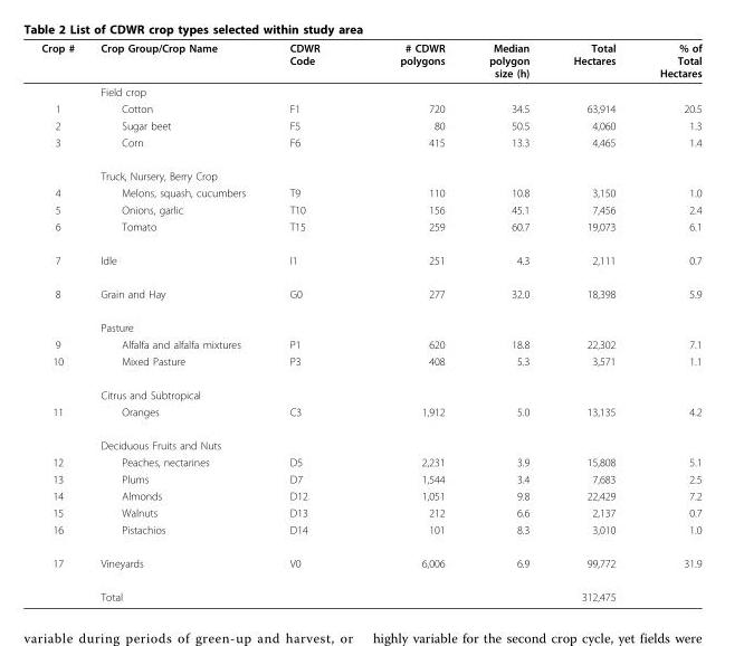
<table><thead><tr><td>Crop #</td><td>Crop Group/Crop Name</td><td>CDWR Code</td><td># CDWR polygons</td><td>Median polygon size (h)</td><td>Total Hectares</td><td>% of Total Hectares</td></tr></thead><tbody><tr><td></td><td>Field crop</td><td></td><td></td><td></td><td></td><td></td></tr><tr><td>1</td><td>Cotton</td><td>F1</td><td>720</td><td>34.5</td><td>63,914</td><td>20.5</td></tr><tr><td>2</td><td>Sugar beet</td><td>F5</td><td>80</td><td>50.5</td><td>4,060</td><td>1.3</td></tr><tr><td rowspan="2">3</td><td>Corn</td><td>F6</td><td>415</td><td>13.3</td><td>4,465</td><td>1.4</td></tr><tr><td>Truck, Nursery, Berry Crop</td><td></td><td></td><td></td><td></td><td></td></tr><tr><td>4</td><td>Melons, squash, cucumbers</td><td>T9</td><td>110</td><td>10.8</td><td>3,150</td><td>1.0</td></tr><tr><td>5</td><td>Onions, garlic</td><td>T10</td><td>156</td><td>45.1</td><td>7,456</td><td>2.4</td></tr><tr><td>6</td><td>Tomato</td><td>T15</td><td>259</td><td>60.7</td><td>19,073</td><td>6.1</td></tr><tr><td>7</td><td>Idle</td><td>I1</td><td>251</td><td>4.3</td><td>2,111</td><td>0.7</td></tr><tr><td rowspan="2">8</td><td>Grain and Hay</td><td>G0</td><td>277</td><td>32.0</td><td>18,398</td><td>5.9</td></tr><tr><td>Pasture</td><td></td><td></td><td></td><td></td><td></td></tr><tr><td>9</td><td>Alfalfa and alfalfa mixtures</td><td>P1</td><td>620</td><td>18.8</td><td>22,302</td><td>7.1</td></tr><tr><td rowspan="2">10</td><td>Mixed Pasture</td><td>P3</td><td>408</td><td>5.3</td><td>3,571</td><td>1.1</td></tr><tr><td>Citrus and Subtropical</td><td></td><td></td><td></td><td></td><td></td></tr><tr><td rowspan="2">11</td><td>Oranges</td><td>C3</td><td>1,912</td><td>5.0</td><td>13,135</td><td>4.2</td></tr><tr><td>Deciduous Fruits and Nuts</td><td></td><td></td><td></td><td></td><td></td></tr><tr><td>12</td><td>Peaches, nectarines</td><td>D5</td><td>2,231</td><td>3.9</td><td>15,808</td><td>5.1</td></tr><tr><td>13</td><td>Plums</td><td>D7</td><td>1,544</td><td>3.4</td><td>7,683</td><td>2.5</td></tr><tr><td>14</td><td>Almonds</td><td>D12</td><td>1,051</td><td>9.8</td><td>22,429</td><td>7.2</td></tr><tr><td>15</td><td>Walnuts</td><td>D13</td><td>212</td><td>6.6</td><td>2,137</td><td>0.7</td></tr><tr><td>16</td><td>Pistachios</td><td>D14</td><td>101</td><td>8.3</td><td>3,010</td><td>1.0</td></tr><tr><td rowspan="2">17</td><td>Vineyards</td><td>V0</td><td>6,006</td><td>6.9</td><td>99,772</td><td>31.9</td></tr><tr><td>Total</td><td></td><td></td><td></td><td>312,475</td><td></td></tr></tbody></table>